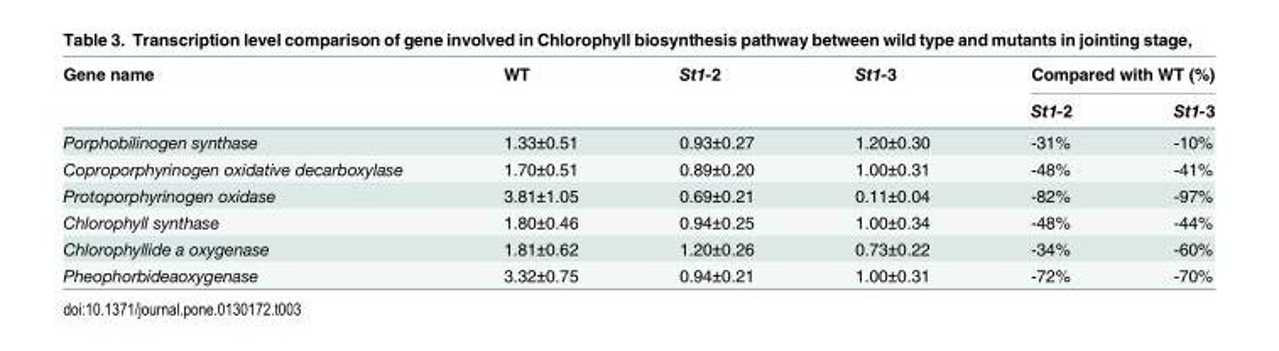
<table><thead><tr><td rowspan="2">Gene name</td><td rowspan="2">WT</td><td rowspan="2">St1-2</td><td rowspan="2">St1-3</td><td colspan="2">Compared with WT (%)</td></tr><tr><td>St1-2</td><td>St1-3</td></tr></thead><tbody><tr><td>Porphobilinogen synthase</td><td>1.33±0.51</td><td>0.93±0.27</td><td>1.20±0.30</td><td>-31%</td><td>-10%</td></tr><tr><td>Coproporphyrinogen oxidative decarboxylase</td><td>1.70±0.51</td><td>0.89±0.20</td><td>1.00±0.31</td><td>-48%</td><td>-41%</td></tr><tr><td>Protoporphyrinogen oxidase</td><td>3.81±1.05</td><td>0.69±0.21</td><td>0.11±0.04</td><td>-82%</td><td>-97%</td></tr><tr><td>Chlorophyll synthase</td><td>1.80±0.46</td><td>0.94±0.25</td><td>1.00±0.34</td><td>-48%</td><td>-44%</td></tr><tr><td>Chlorophyllide a oxygenase</td><td>1.81±0.62</td><td>1.20±0.26</td><td>0.73±0.22</td><td>-34%</td><td>-60%</td></tr><tr><td>Pheophorbideaoxygenase</td><td>3.32±0.75</td><td>0.94±0.21</td><td>1.00±0.31</td><td>-72%</td><td>-70%</td></tr></tbody></table>